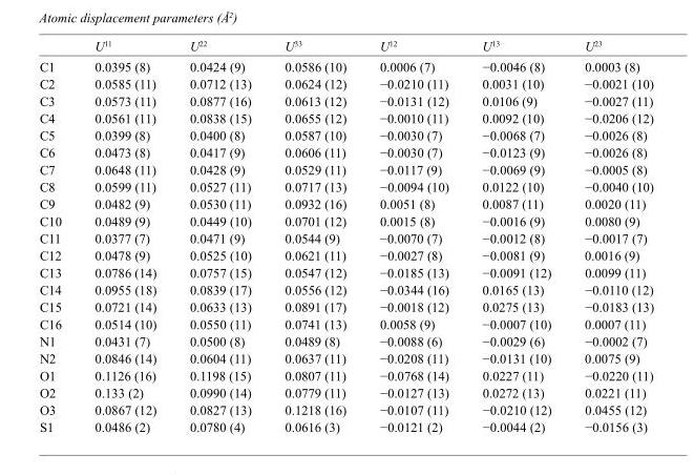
<table><thead><tr><td></td><td>U<sup>11</sup></td><td>U<sup>22</sup></td><td>U<sup>33</sup></td><td>U<sup>12</sup></td><td>U<sup>13</sup></td><td>U<sup>23</sup></td></tr></thead><tbody><tr><td>C1</td><td>0.0395 (8)</td><td>0.0424 (9)</td><td>0.0586 (10)</td><td>0.0006 (7)</td><td>−0.0046 (8)</td><td>0.0003 (8)</td></tr><tr><td>C2</td><td>0.0585 (11)</td><td>0.0712 (13)</td><td>0.0624 (12)</td><td>−0.0210 (11)</td><td>0.0031 (10)</td><td>−0.0021 (10)</td></tr><tr><td>C3</td><td>0.0573 (11)</td><td>0.0877 (16)</td><td>0.0613 (12)</td><td>−0.0131 (12)</td><td>0.0106 (9)</td><td>−0.0027 (11)</td></tr><tr><td>C4</td><td>0.0561 (11)</td><td>0.0838 (15)</td><td>0.0655 (12)</td><td>−0.0010 (11)</td><td>0.0092 (10)</td><td>−0.0206 (12)</td></tr><tr><td>C5</td><td>0.0399 (8)</td><td>0.0400 (8)</td><td>0.0587 (10)</td><td>−0.0030 (7)</td><td>−0.0068 (7)</td><td>−0.0026 (8)</td></tr><tr><td>C6</td><td>0.0473 (8)</td><td>0.0417 (9)</td><td>0.0606 (11)</td><td>−0.0030 (7)</td><td>−0.0123 (9)</td><td>−0.0026 (8)</td></tr><tr><td>C7</td><td>0.0648 (11)</td><td>0.0428 (9)</td><td>0.0529 (11)</td><td>−0.0117 (9)</td><td>−0.0069 (9)</td><td>−0.0005 (8)</td></tr><tr><td>C8</td><td>0.0599 (11)</td><td>0.0527 (11)</td><td>0.0717 (13)</td><td>−0.0094 (10)</td><td>0.0122 (10)</td><td>−0.0040 (10)</td></tr><tr><td>C9</td><td>0.0482 (9)</td><td>0.0530 (11)</td><td>0.0932 (16)</td><td>0.0051 (8)</td><td>0.0087 (11)</td><td>0.0020 (11)</td></tr><tr><td>C10</td><td>0.0489 (9)</td><td>0.0449 (10)</td><td>0.0701 (12)</td><td>0.0015 (8)</td><td>−0.0016 (9)</td><td>0.0080 (9)</td></tr><tr><td>C11</td><td>0.0377 (7)</td><td>0.0471 (9)</td><td>0.0544 (9)</td><td>−0.0070 (7)</td><td>−0.0012 (8)</td><td>−0.0017 (7)</td></tr><tr><td>C12</td><td>0.0478 (9)</td><td>0.0525 (10)</td><td>0.0621 (11)</td><td>−0.0027 (8)</td><td>−0.0081 (9)</td><td>0.0016 (9)</td></tr><tr><td>C13</td><td>0.0786 (14)</td><td>0.0757 (15)</td><td>0.0547 (12)</td><td>−0.0185 (13)</td><td>−0.0091 (12)</td><td>0.0099 (11)</td></tr><tr><td>C14</td><td>0.0955 (18)</td><td>0.0839 (17)</td><td>0.0556 (12)</td><td>−0.0344 (16)</td><td>0.0165 (13)</td><td>−0.0110 (12)</td></tr><tr><td>C15</td><td>0.0721 (14)</td><td>0.0633 (13)</td><td>0.0891 (17)</td><td>−0.0018 (12)</td><td>0.0275 (13)</td><td>−0.0183 (13)</td></tr><tr><td>C16</td><td>0.0514 (10)</td><td>0.0550 (11)</td><td>0.0741 (13)</td><td>0.0058 (9)</td><td>−0.0007 (10)</td><td>0.0007 (11)</td></tr><tr><td>N1</td><td>0.0431 (7)</td><td>0.0500 (8)</td><td>0.0489 (8)</td><td>−0.0088 (6)</td><td>−0.0029 (6)</td><td>−0.0002 (7)</td></tr><tr><td>N2</td><td>0.0846 (14)</td><td>0.0604 (11)</td><td>0.0637 (11)</td><td>−0.0208 (11)</td><td>−0.0131 (10)</td><td>0.0075 (9)</td></tr><tr><td>O1</td><td>0.1126 (16)</td><td>0.1198 (15)</td><td>0.0807 (11)</td><td>−0.0768 (14)</td><td>0.0227 (11)</td><td>−0.0220 (11)</td></tr><tr><td>O2</td><td>0.133 (2)</td><td>0.0990 (14)</td><td>0.0779 (11)</td><td>−0.0127 (13)</td><td>0.0272 (13)</td><td>0.0221 (11)</td></tr><tr><td>O3</td><td>0.0867 (12)</td><td>0.0827 (13)</td><td>0.1218 (16)</td><td>−0.0107 (11)</td><td>−0.0210 (12)</td><td>0.0455 (12)</td></tr><tr><td>S1</td><td>0.0486 (2)</td><td>0.0780 (4)</td><td>0.0616 (3)</td><td>−0.0121 (2)</td><td>−0.0044 (2)</td><td>−0.0156 (3)</td></tr></tbody></table>